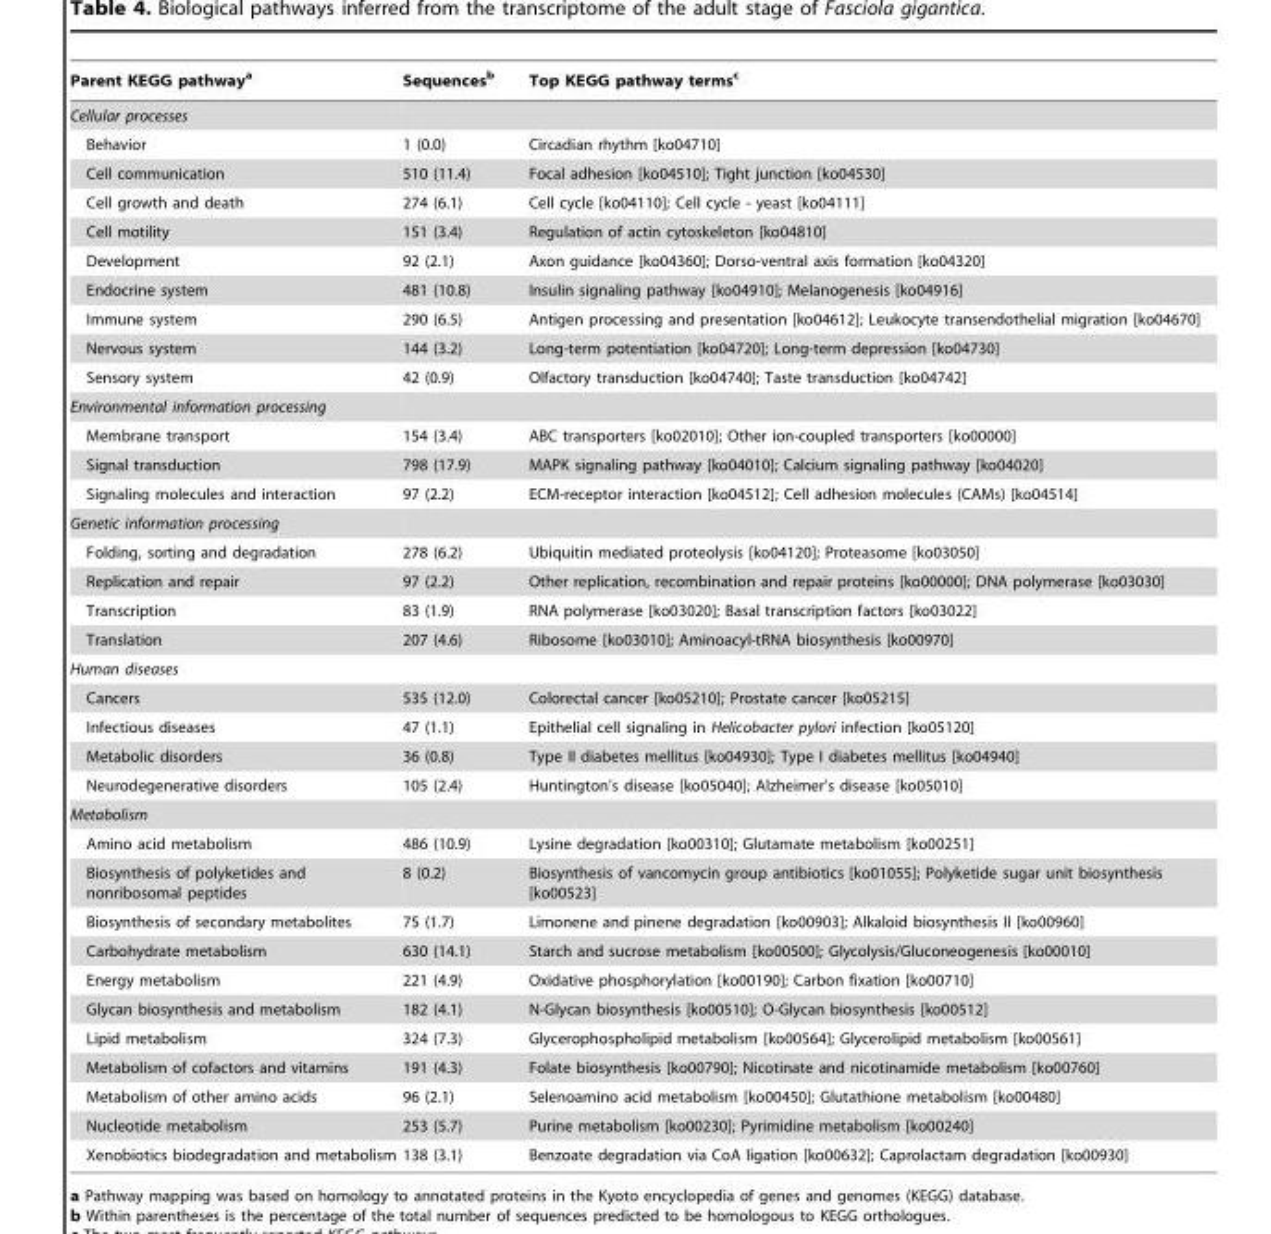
<table><thead><tr><td>Parent KEGG pathway<sup>a</sup></td><td>Sequences<sup>b</sup></td><td>Top KEGG pathway terms<sup>c</sup></td></tr></thead><tbody><tr><td colspan="3">Cellular processes</td></tr><tr><td>Behavior</td><td>1 (0.0)</td><td>Circadian rhythm [ko04710]</td></tr><tr><td>Cell communication</td><td>510 (11.4)</td><td>Focal adhesion [ko04510]; Tight junction [ko04530]</td></tr><tr><td>Cell growth and death</td><td>274 (6.1)</td><td>Cell cycle [ko04110]; Cell cycle - yeast [ko04111]</td></tr><tr><td>Cell motility</td><td>151 (3.4)</td><td>Regulation of actin cytoskeleton [ko04810]</td></tr><tr><td>Development</td><td>92 (2.1)</td><td>Axon guidance [ko04360]; Dorso-ventral axis formation [ko04320]</td></tr><tr><td>Endocrine system</td><td>481 (10.8)</td><td>Insulin signaling pathway [ko04910]; Melanogenesis [ko04916]</td></tr><tr><td>Immune system</td><td>290 (6.5)</td><td>Antigen processing and presentation [ko04612]; Leukocyte transendothelial migration [ko04670]</td></tr><tr><td>Nervous system</td><td>144 (3.2)</td><td>Long-term potentiation [ko04720]; Long-term depression [ko04730]</td></tr><tr><td>Sensory system</td><td>42 (0.9)</td><td>Olfactory transduction [ko04740]; Taste transduction [ko04742]</td></tr><tr><td colspan="3">Environmental information processing</td></tr><tr><td>Membrane transport</td><td>154 (3.4)</td><td>ABC transporters [ko02010]; Other ion-coupled transporters [ko00000]</td></tr><tr><td>Signal transduction</td><td>798 (17.9)</td><td>MAPK signaling pathway [ko04010]; Calcium signaling pathway [ko04020]</td></tr><tr><td>Signaling molecules and interaction</td><td>97 (2.2)</td><td>ECM-receptor interaction [ko04512]; Cell adhesion molecules (CAMs) [ko04514]</td></tr><tr><td colspan="3">Genetic information processing</td></tr><tr><td>Folding, sorting and degradation</td><td>278 (6.2)</td><td>Ubiquitin mediated proteolysis [ko04120]; Proteasome [ko03050]</td></tr><tr><td>Replication and repair</td><td>97 (2.2)</td><td>Other replication, recombination and repair proteins [ko00000]; DNA polymerase [ko03030]</td></tr><tr><td>Transcription</td><td>83 (1.9)</td><td>RNA polymerase [ko03020]; Basal transcription factors [ko03022]</td></tr><tr><td>Translation</td><td>207 (4.6)</td><td>Ribosome [ko03010]; Aminoacyl-tRNA biosynthesis [ko00970]</td></tr><tr><td colspan="3">Human diseases</td></tr><tr><td>Cancers</td><td>535 (12.0)</td><td>Colorectal cancer [ko05210]; Prostate cancer [ko05215]</td></tr><tr><td>Infectious diseases</td><td>47 (1.1)</td><td>Epithelial cell signaling in Helicobacter pylori infection [ko05120]</td></tr><tr><td>Metabolic disorders</td><td>36 (0.8)</td><td>Type II diabetes mellitus [ko04930]; Type I diabetes mellitus [ko04940]</td></tr><tr><td>Neurodegenerative disorders</td><td>105 (2.4)</td><td>Huntington’s disease [ko05040]; Alzheimer’s disease [ko05010]</td></tr><tr><td colspan="3">Metabolism</td></tr><tr><td>Amino acid metabolism</td><td>486 (10.9)</td><td>Lysine degradation [ko00310]; Glutamate metabolism [ko00251]</td></tr><tr><td>Biosynthesis of polyketides and nonribosomal peptides</td><td>8 (0.2)</td><td>Biosynthesis of vancomycin group antibiotics [ko01055]; Polyketide sugar unit biosynthesis [ko00523]</td></tr><tr><td>Biosynthesis of secondary metabolites</td><td>75 (1.7)</td><td>Limonene and pinene degradation [ko00903]; Alkaloid biosynthesis II [ko00960]</td></tr><tr><td>Carbohydrate metabolism</td><td>630 (14.1)</td><td>Starch and sucrose metabolism [ko00500]; Glycolysis/Gluconeogenesis [ko00010]</td></tr><tr><td>Energy metabolism</td><td>221 (4.9)</td><td>Oxidative phosphorylation [ko00190]; Carbon fixation [ko00710]</td></tr><tr><td>Glycan biosynthesis and metabolism</td><td>182 (4.1)</td><td>N-Glycan biosynthesis [ko00510]; O-Glycan biosynthesis [ko00512]</td></tr><tr><td>Lipid metabolism</td><td>324 (7.3)</td><td>Glycerophospholipid metabolism [ko00564]; Glycerolipid metabolism [ko00561]</td></tr><tr><td>Metabolism of cofactors and vitamins</td><td>191 (4.3)</td><td>Folate biosynthesis [ko00790]; Nicotinate and nicotinamide metabolism [ko00760]</td></tr><tr><td>Metabolism of other amino acids</td><td>96 (2.1)</td><td>Selenoamino acid metabolism [ko00450]; Glutathione metabolism [ko00480]</td></tr><tr><td>Nucleotide metabolism</td><td>253 (5.7)</td><td>Purine metabolism [ko00230]; Pyrimidine metabolism [ko00240]</td></tr><tr><td>Xenobiotics biodegradation and metabolism</td><td>138 (3.1)</td><td>Benzoate degradation via CoA ligation [ko00632]; Caprolactam degradation [ko00930]</td></tr></tbody></table>